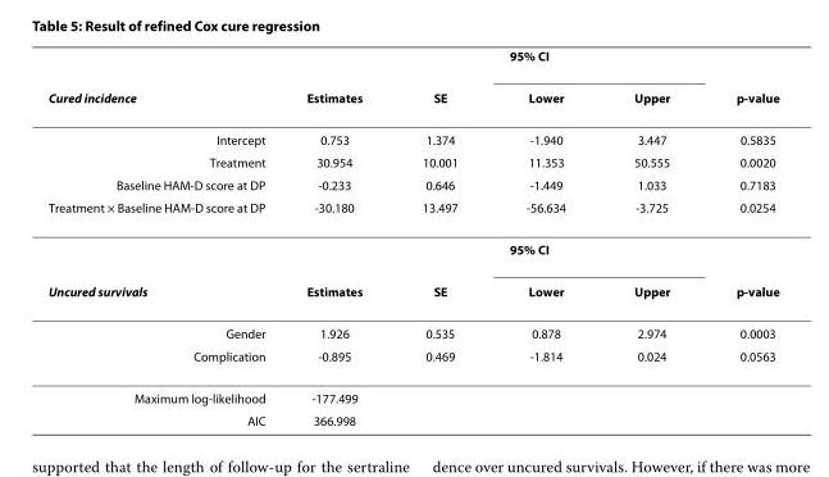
<table><thead><tr><td rowspan="2">Cured incidence</td><td rowspan="2">Estimates</td><td rowspan="2">SE</td><td colspan="2">95% CI</td><td rowspan="2">p-value</td></tr><tr><td>Lower</td><td>Upper</td></tr></thead><tbody><tr><td>Intercept</td><td>0.753</td><td>1.374</td><td>-1.940</td><td>3.447</td><td>0.5835</td></tr><tr><td>Treatment</td><td>30.954</td><td>10.001</td><td>11.353</td><td>50.555</td><td>0.0020</td></tr><tr><td>Baseline HAM-D score at DP</td><td>-0.233</td><td>0.646</td><td>-1.449</td><td>1.033</td><td>0.7183</td></tr><tr><td rowspan="2">Treatment × Baseline HAM-D score at DP</td><td>-30.180</td><td>13.497</td><td>-56.634</td><td>-3.725</td><td>0.0254</td></tr><tr><td></td><td></td><td colspan="2">95% CI</td><td></td></tr><tr><td>Uncured survivals</td><td>Estimates</td><td>SE</td><td>Lower</td><td>Upper</td><td>p-value</td></tr><tr><td>Gender</td><td>1.926</td><td>0.535</td><td>0.878</td><td>2.974</td><td>0.0003</td></tr><tr><td>Complication</td><td>-0.895</td><td>0.469</td><td>-1.814</td><td>0.024</td><td>0.0563</td></tr><tr><td>Maximum log-likelihood</td><td>-177.499</td><td></td><td></td><td></td><td></td></tr><tr><td>AIC</td><td>366.998</td><td></td><td></td><td></td><td></td></tr></tbody></table>